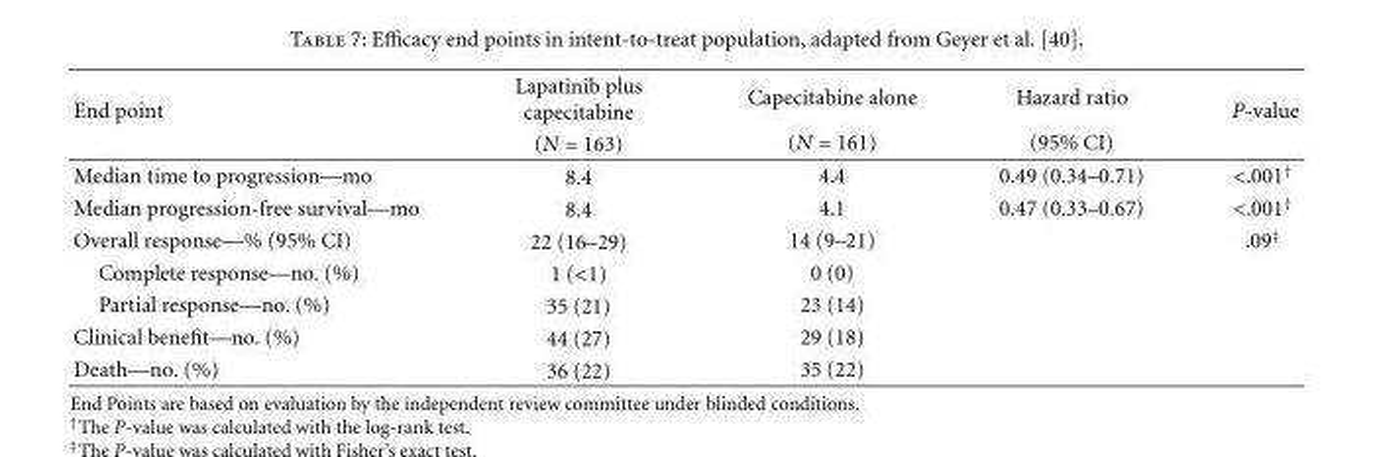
<table><thead><tr><td rowspan="2">End point</td><td rowspan="2">Lapatinib plus capecitabine (N = 163)</td><td rowspan="2">Capecitabine alone (N = 161)</td><td rowspan="2">Hazard ratio (95% CI)</td><td rowspan="2">P-value</td></tr><tr></tr></thead><tbody><tr><td>Median time to progression—mo</td><td>8.4</td><td>4.4</td><td>0.49 (0.34–0.71)</td><td>&lt;.001<sup>†</sup></td></tr><tr><td>Median progression-free survival—mo</td><td>8.4</td><td>4.1</td><td>0.47 (0.33–0.67)</td><td>&lt;.001<sup>†</sup></td></tr><tr><td>Overall response—% (95% CI)</td><td>22 (16–29)</td><td>14 (9–21)</td><td></td><td>.09<sup>‡</sup></td></tr><tr><td>Complete response—no. (%)</td><td>1 (&lt;1)</td><td>0 (0)</td><td></td><td></td></tr><tr><td>Partial response—no. (%)</td><td>35 (21)</td><td>23 (14)</td><td></td><td></td></tr><tr><td>Clinical benefit—no. (%)</td><td>44 (27)</td><td>29 (18)</td><td></td><td></td></tr><tr><td>Death—no. (%)</td><td>36 (22)</td><td>35 (22)</td><td></td><td></td></tr></tbody></table>